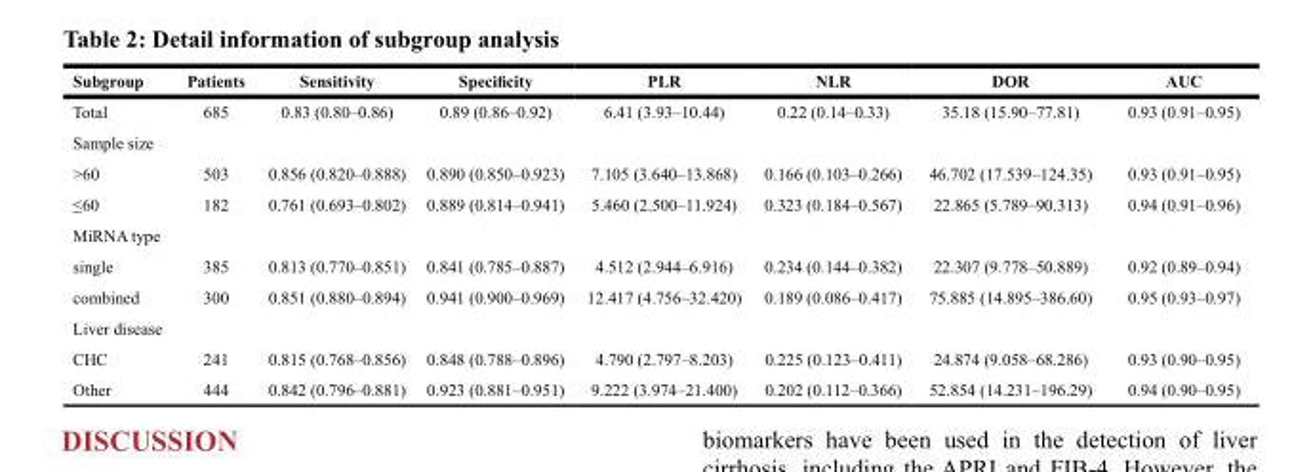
<table><thead><tr><td>Subgroup</td><td>Patients</td><td>Sensitivity</td><td>Specificity</td><td>PLR</td><td>NLR</td><td>DOR</td><td>AUC</td></tr></thead><tbody><tr><td>Total</td><td>685</td><td>0.83 (0.80–0.86)</td><td>0.89 (0.86–0.92)</td><td>6.41 (3.93–10.44)</td><td>0.22 (0.14–0.33)</td><td>35.18 (15.90–77.81)</td><td>0.93 (0.91–0.95)</td></tr><tr><td colspan="8">Sample size</td></tr><tr><td>&gt;60</td><td>503</td><td>0.856 (0.820–0.888)</td><td>0.890 (0.850–0.923)</td><td>7.105 (3.640–13.868)</td><td>0.166 (0.103–0.266)</td><td>46.702 (17.539–124.35)</td><td>0.93 (0.91–0.95)</td></tr><tr><td>≤60</td><td>182</td><td>0.761 (0.693–0.802)</td><td>0.889 (0.814–0.941)</td><td>5.460 (2.500–11.924)</td><td>0.323 (0.184–0.567)</td><td>22.865 (5.789–90.313)</td><td>0.94 (0.91–0.96)</td></tr><tr><td colspan="8">MiRNA type</td></tr><tr><td>single</td><td>385</td><td>0.813 (0.770–0.851)</td><td>0.841 (0.785–0.887)</td><td>4.512 (2.944–6.916)</td><td>0.234 (0.144–0.382)</td><td>22.307 (9.778–50.889)</td><td>0.92 (0.89–0.94)</td></tr><tr><td>combined</td><td>300</td><td>0.851 (0.880–0.894)</td><td>0.941 (0.900–0.969)</td><td>12.417 (4.756–32.420)</td><td>0.189 (0.086–0.417)</td><td>75.885 (14.895–386.60)</td><td>0.95 (0.93–0.97)</td></tr><tr><td colspan="8">Liver disease</td></tr><tr><td>CHC</td><td>241</td><td>0.815 (0.768–0.856)</td><td>0.848 (0.788–0.896)</td><td>4.790 (2.797–8.203)</td><td>0.225 (0.123–0.411)</td><td>24.874 (9.058–68.286)</td><td>0.93 (0.90–0.95)</td></tr><tr><td>Other</td><td>444</td><td>0.842 (0.796–0.881)</td><td>0.923 (0.881–0.951)</td><td>9.222 (3.974–21.400)</td><td>0.202 (0.112–0.366)</td><td>52.854 (14.231–196.29)</td><td>0.94 (0.90–0.95)</td></tr></tbody></table>